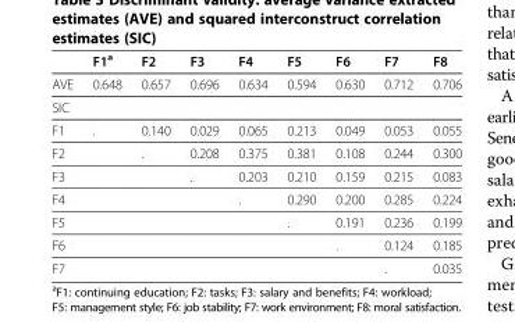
<table><thead><tr><td></td><td>F1<sup>a</sup></td><td>F2</td><td>F3</td><td>F4</td><td>F5</td><td>F6</td><td>F7</td><td>F8</td></tr></thead><tbody><tr><td>AVE</td><td>0.648</td><td>0.657</td><td>0.696</td><td>0.634</td><td>0.594</td><td>0.630</td><td>0.712</td><td>0.706</td></tr><tr><td colspan="9">SIC</td></tr><tr><td>F1</td><td>.</td><td>0.140</td><td>0.029</td><td>0.065</td><td>0.213</td><td>0.049</td><td>0.053</td><td>0.055</td></tr><tr><td>F2</td><td></td><td>.</td><td>0.208</td><td>0.375</td><td>0.381</td><td>0.108</td><td>0.244</td><td>0.300</td></tr><tr><td>F3</td><td></td><td></td><td>.</td><td>0.203</td><td>0.210</td><td>0.159</td><td>0.215</td><td>0.083</td></tr><tr><td>F4</td><td></td><td></td><td></td><td>.</td><td>0.290</td><td>0.200</td><td>0.285</td><td>0.224</td></tr><tr><td>F5</td><td></td><td></td><td></td><td></td><td>.</td><td>0.191</td><td>0.236</td><td>0.199</td></tr><tr><td>F6</td><td></td><td></td><td></td><td></td><td></td><td>.</td><td>0.124</td><td>0.185</td></tr><tr><td>F7</td><td></td><td></td><td></td><td></td><td></td><td></td><td>.</td><td>0.035</td></tr></tbody></table>